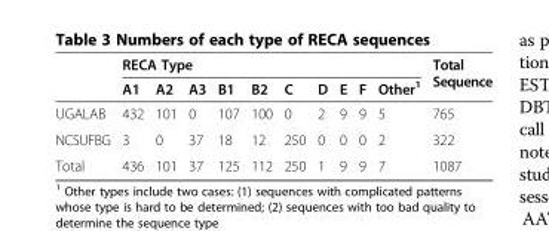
<table><thead><tr><td rowspan="2"></td><td colspan="10">RECA Type</td><td rowspan="2">Total Sequence</td></tr><tr><td>A1</td><td>A2</td><td>A3</td><td>B1</td><td>B2</td><td>C</td><td>D</td><td>E</td><td>F</td><td>Other<sup>1</sup></td></tr></thead><tbody><tr><td>UGALAB</td><td>432</td><td>101</td><td>0</td><td>107</td><td>100</td><td>0</td><td>2</td><td>9</td><td>9</td><td>5</td><td>765</td></tr><tr><td>NCSUFBG</td><td>3</td><td>0</td><td>37</td><td>18</td><td>12</td><td>250</td><td>0</td><td>0</td><td>0</td><td>2</td><td>322</td></tr><tr><td>Total</td><td>436</td><td>101</td><td>37</td><td>125</td><td>112</td><td>250</td><td>1</td><td>9</td><td>9</td><td>7</td><td>1087</td></tr></tbody></table>